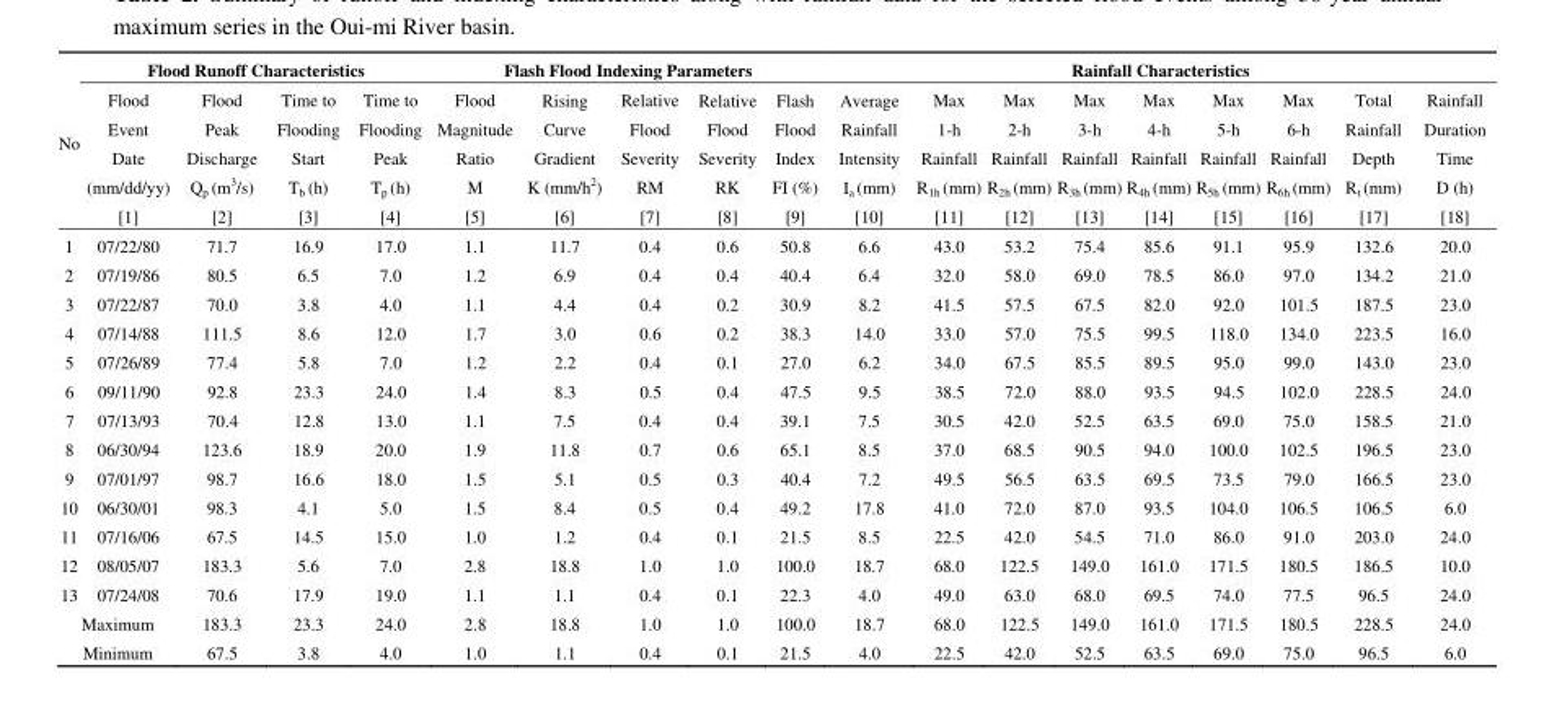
<table><thead><tr><td rowspan="2">No</td><td colspan="4">Flood Runoff Characteristics</td><td colspan="5">Flash Flood Indexing Parameters</td><td colspan="9">Rainfall Characteristics</td></tr><tr><td>Flood Event Date (mm/dd/yy) [1]</td><td>Flood Peak Discharge Q<sub>p</sub> (m<sup>3</sup>/s) [2]</td><td>Time to Flooding Start T<sub>b</sub> (h) [3]</td><td>Time to Flooding Peak T<sub>p</sub> (h) [4]</td><td>Flood Magnitude Ratio M [5]</td><td>Rising Curve Gradient K (mm/h<sup>2</sup>) [6]</td><td>Relative Flood Severity RM [7]</td><td>Relative Flood Severity RK [8]</td><td>Flash Flood Index FI (%) [9]</td><td>Average Rainfall Intensity I<sub>a</sub> (mm) [10]</td><td>Max 1-h Rainfall R<sub>1h</sub> (mm) [11]</td><td>Max 2-h Rainfall R<sub>2h</sub> (mm) [12]</td><td>Max 3-h Rainfall R<sub>3h</sub> (mm) [13]</td><td>Max 4-h Rainfall R<sub>4h</sub> (mm) [14]</td><td>Max 5-h Rainfall R<sub>5h</sub> (mm) [15]</td><td>Max 6-h Rainfall R<sub>6h</sub> (mm) [16]</td><td>Total Rainfall Depth R<sub>t</sub> (mm) [17]</td><td>Rainfall Duration Time D (h) [18]</td></tr></thead><tbody><tr><td>1</td><td>07/22/80</td><td>71.7</td><td>16.9</td><td>17.0</td><td>1.1</td><td>11.7</td><td>0.4</td><td>0.6</td><td>50.8</td><td>6.6</td><td>43.0</td><td>53.2</td><td>75.4</td><td>85.6</td><td>91.1</td><td>95.9</td><td>132.6</td><td>20.0</td></tr><tr><td>2</td><td>07/19/86</td><td>80.5</td><td>6.5</td><td>7.0</td><td>1.2</td><td>6.9</td><td>0.4</td><td>0.4</td><td>40.4</td><td>6.4</td><td>32.0</td><td>58.0</td><td>69.0</td><td>78.5</td><td>86.0</td><td>97.0</td><td>134.2</td><td>21.0</td></tr><tr><td>3</td><td>07/22/87</td><td>70.0</td><td>3.8</td><td>4.0</td><td>1.1</td><td>4.4</td><td>0.4</td><td>0.2</td><td>30.9</td><td>8.2</td><td>41.5</td><td>57.5</td><td>67.5</td><td>82.0</td><td>92.0</td><td>101.5</td><td>187.5</td><td>23.0</td></tr><tr><td>4</td><td>07/14/88</td><td>111.5</td><td>8.6</td><td>12.0</td><td>1.7</td><td>3.0</td><td>0.6</td><td>0.2</td><td>38.3</td><td>14.0</td><td>33.0</td><td>57.0</td><td>75.5</td><td>99.5</td><td>118.0</td><td>134.0</td><td>223.5</td><td>16.0</td></tr><tr><td>5</td><td>07/26/89</td><td>77.4</td><td>5.8</td><td>7.0</td><td>1.2</td><td>2.2</td><td>0.4</td><td>0.1</td><td>27.0</td><td>6.2</td><td>34.0</td><td>67.5</td><td>85.5</td><td>89.5</td><td>95.0</td><td>99.0</td><td>143.0</td><td>23.0</td></tr><tr><td>6</td><td>09/11/90</td><td>92.8</td><td>23.3</td><td>24.0</td><td>1.4</td><td>8.3</td><td>0.5</td><td>0.4</td><td>47.5</td><td>9.5</td><td>38.5</td><td>72.0</td><td>88.0</td><td>93.5</td><td>94.5</td><td>102.0</td><td>228.5</td><td>24.0</td></tr><tr><td>7</td><td>07/13/93</td><td>70.4</td><td>12.8</td><td>13.0</td><td>1.1</td><td>7.5</td><td>0.4</td><td>0.4</td><td>39.1</td><td>7.5</td><td>30.5</td><td>42.0</td><td>52.5</td><td>63.5</td><td>69.0</td><td>75.0</td><td>158.5</td><td>21.0</td></tr><tr><td>8</td><td>06/30/94</td><td>123.6</td><td>18.9</td><td>20.0</td><td>1.9</td><td>11.8</td><td>0.7</td><td>0.6</td><td>65.1</td><td>8.5</td><td>37.0</td><td>68.5</td><td>90.5</td><td>94.0</td><td>100.0</td><td>102.5</td><td>196.5</td><td>23.0</td></tr><tr><td>9</td><td>07/01/97</td><td>98.7</td><td>16.6</td><td>18.0</td><td>1.5</td><td>5.1</td><td>0.5</td><td>0.3</td><td>40.4</td><td>7.2</td><td>49.5</td><td>56.5</td><td>63.5</td><td>69.5</td><td>73.5</td><td>79.0</td><td>166.5</td><td>23.0</td></tr><tr><td>10</td><td>06/30/01</td><td>98.3</td><td>4.1</td><td>5.0</td><td>1.5</td><td>8.4</td><td>0.5</td><td>0.4</td><td>49.2</td><td>17.8</td><td>41.0</td><td>72.0</td><td>87.0</td><td>93.5</td><td>104.0</td><td>106.5</td><td>106.5</td><td>6.0</td></tr><tr><td>11</td><td>07/16/06</td><td>67.5</td><td>14.5</td><td>15.0</td><td>1.0</td><td>1.2</td><td>0.4</td><td>0.1</td><td>21.5</td><td>8.5</td><td>22.5</td><td>42.0</td><td>54.5</td><td>71.0</td><td>86.0</td><td>91.0</td><td>203.0</td><td>24.0</td></tr><tr><td>12</td><td>08/05/07</td><td>183.3</td><td>5.6</td><td>7.0</td><td>2.8</td><td>18.8</td><td>1.0</td><td>1.0</td><td>100.0</td><td>18.7</td><td>68.0</td><td>122.5</td><td>149.0</td><td>161.0</td><td>171.5</td><td>180.5</td><td>186.5</td><td>10.0</td></tr><tr><td>13</td><td>07/24/08</td><td>70.6</td><td>17.9</td><td>19.0</td><td>1.1</td><td>1.1</td><td>0.4</td><td>0.1</td><td>22.3</td><td>4.0</td><td>49.0</td><td>63.0</td><td>68.0</td><td>69.5</td><td>74.0</td><td>77.5</td><td>96.5</td><td>24.0</td></tr><tr><td colspan="2">Maximum</td><td>183.3</td><td>23.3</td><td>24.0</td><td>2.8</td><td>18.8</td><td>1.0</td><td>1.0</td><td>100.0</td><td>18.7</td><td>68.0</td><td>122.5</td><td>149.0</td><td>161.0</td><td>171.5</td><td>180.5</td><td>228.5</td><td>24.0</td></tr><tr><td colspan="2">Minimum</td><td>67.5</td><td>3.8</td><td>4.0</td><td>1.0</td><td>1.1</td><td>0.4</td><td>0.1</td><td>21.5</td><td>4.0</td><td>22.5</td><td>42.0</td><td>52.5</td><td>63.5</td><td>69.0</td><td>75.0</td><td>96.5</td><td>6.0</td></tr></tbody></table>